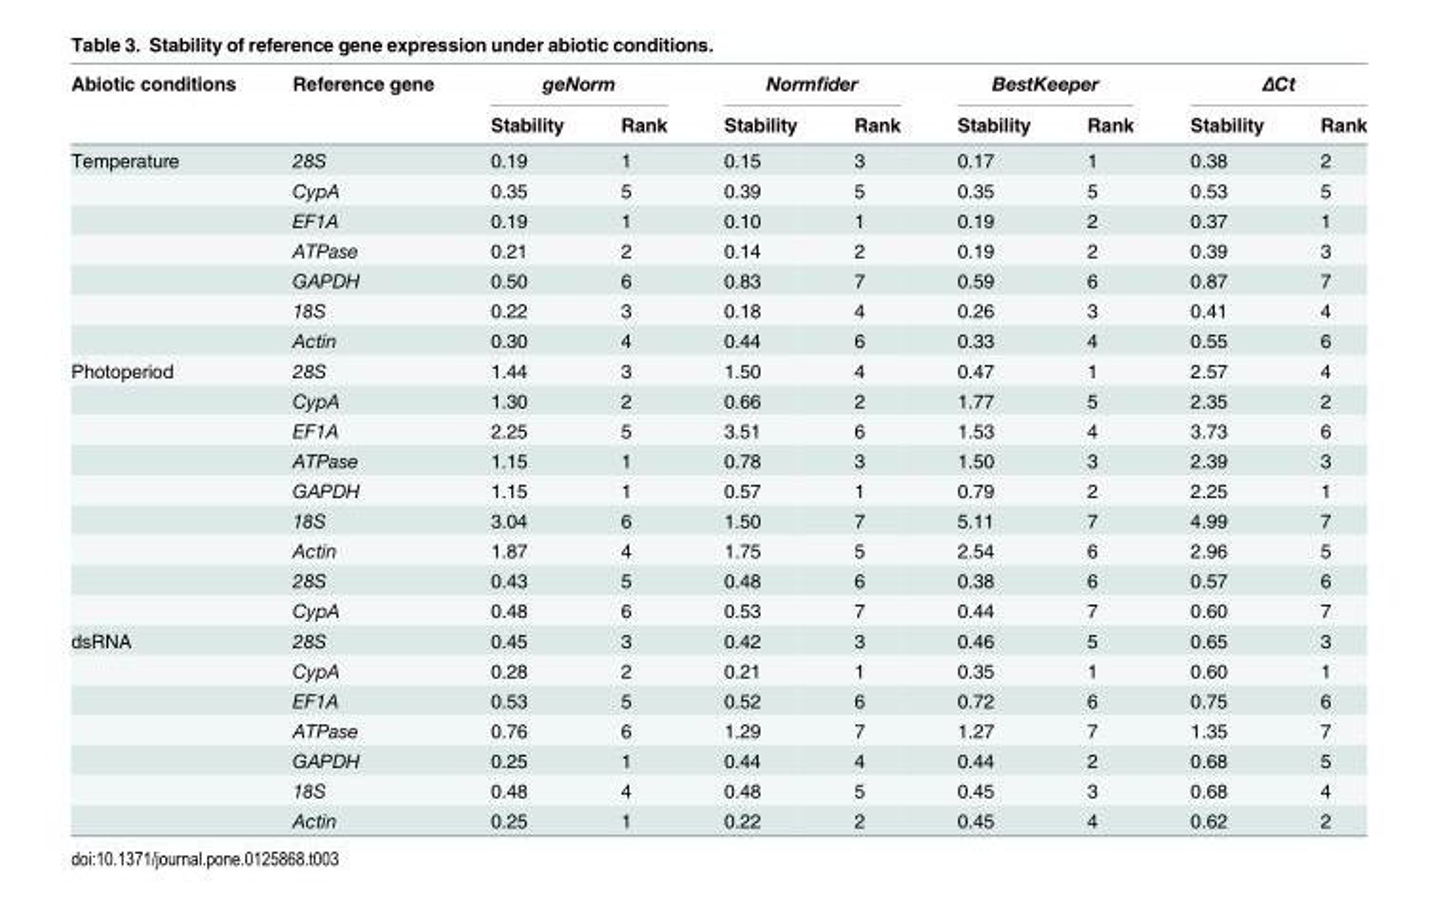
<table><thead><tr><td rowspan="2">Abiotic conditions</td><td rowspan="2">Reference gene</td><td colspan="2">geNorm</td><td colspan="2">Normfider</td><td colspan="2">BestKeeper</td><td colspan="2">ΔCt</td></tr><tr><td>Stability</td><td>Rank</td><td>Stability</td><td>Rank</td><td>Stability</td><td>Rank</td><td>Stability</td><td>Rank</td></tr></thead><tbody><tr><td rowspan="7">Temperature</td><td>28S</td><td>0.19</td><td>1</td><td>0.15</td><td>3</td><td>0.17</td><td>1</td><td>0.38</td><td>2</td></tr><tr><td>CypA</td><td>0.35</td><td>5</td><td>0.39</td><td>5</td><td>0.35</td><td>5</td><td>0.53</td><td>5</td></tr><tr><td>EF1A</td><td>0.19</td><td>1</td><td>0.10</td><td>1</td><td>0.19</td><td>2</td><td>0.37</td><td>1</td></tr><tr><td>ATPase</td><td>0.21</td><td>2</td><td>0.14</td><td>2</td><td>0.19</td><td>2</td><td>0.39</td><td>3</td></tr><tr><td>GAPDH</td><td>0.50</td><td>6</td><td>0.83</td><td>7</td><td>0.59</td><td>6</td><td>0.87</td><td>7</td></tr><tr><td>18S</td><td>0.22</td><td>3</td><td>0.18</td><td>4</td><td>0.26</td><td>3</td><td>0.41</td><td>4</td></tr><tr><td>Actin</td><td>0.30</td><td>4</td><td>0.44</td><td>6</td><td>0.33</td><td>4</td><td>0.55</td><td>6</td></tr><tr><td rowspan="9">Photoperiod</td><td>28S</td><td>1.44</td><td>3</td><td>1.50</td><td>4</td><td>0.47</td><td>1</td><td>2.57</td><td>4</td></tr><tr><td>CypA</td><td>1.30</td><td>2</td><td>0.66</td><td>2</td><td>1.77</td><td>5</td><td>2.35</td><td>2</td></tr><tr><td>EF1A</td><td>2.25</td><td>5</td><td>3.51</td><td>6</td><td>1.53</td><td>4</td><td>3.73</td><td>6</td></tr><tr><td>ATPase</td><td>1.15</td><td>1</td><td>0.78</td><td>3</td><td>1.50</td><td>3</td><td>2.39</td><td>3</td></tr><tr><td>GAPDH</td><td>1.15</td><td>1</td><td>0.57</td><td>1</td><td>0.79</td><td>2</td><td>2.25</td><td>1</td></tr><tr><td>18S</td><td>3.04</td><td>6</td><td>1.50</td><td>7</td><td>5.11</td><td>7</td><td>4.99</td><td>7</td></tr><tr><td>Actin</td><td>1.87</td><td>4</td><td>1.75</td><td>5</td><td>2.54</td><td>6</td><td>2.96</td><td>5</td></tr><tr><td>28S</td><td>0.43</td><td>5</td><td>0.48</td><td>6</td><td>0.38</td><td>6</td><td>0.57</td><td>6</td></tr><tr><td>CypA</td><td>0.48</td><td>6</td><td>0.53</td><td>7</td><td>0.44</td><td>7</td><td>0.60</td><td>7</td></tr><tr><td rowspan="7">dsRNA</td><td>28S</td><td>0.45</td><td>3</td><td>0.42</td><td>3</td><td>0.46</td><td>5</td><td>0.65</td><td>3</td></tr><tr><td>CypA</td><td>0.28</td><td>2</td><td>0.21</td><td>1</td><td>0.35</td><td>1</td><td>0.60</td><td>1</td></tr><tr><td>EF1A</td><td>0.53</td><td>5</td><td>0.52</td><td>6</td><td>0.72</td><td>6</td><td>0.75</td><td>6</td></tr><tr><td>ATPase</td><td>0.76</td><td>6</td><td>1.29</td><td>7</td><td>1.27</td><td>7</td><td>1.35</td><td>7</td></tr><tr><td>GAPDH</td><td>0.25</td><td>1</td><td>0.44</td><td>4</td><td>0.44</td><td>2</td><td>0.68</td><td>5</td></tr><tr><td>18S</td><td>0.48</td><td>4</td><td>0.48</td><td>5</td><td>0.45</td><td>3</td><td>0.68</td><td>4</td></tr><tr><td>Actin</td><td>0.25</td><td>1</td><td>0.22</td><td>2</td><td>0.45</td><td>4</td><td>0.62</td><td>2</td></tr></tbody></table>